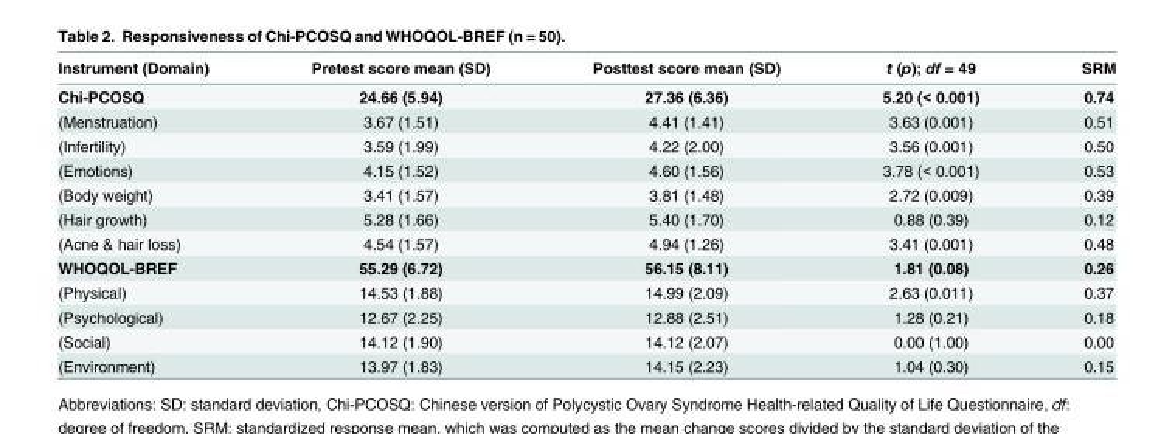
<table><thead><tr><td>Instrument (Domain)</td><td>Pretest score mean (SD)</td><td>Posttest score mean (SD)</td><td>t (p); df = 49</td><td>SRM</td></tr></thead><tbody><tr><td>Chi-PCOSQ</td><td>24.66 (5.94)</td><td>27.36 (6.36)</td><td>5.20 (&lt; 0.001)</td><td>0.74</td></tr><tr><td>(Menstruation)</td><td>3.67 (1.51)</td><td>4.41 (1.41)</td><td>3.63 (0.001)</td><td>0.51</td></tr><tr><td>(Infertility)</td><td>3.59 (1.99)</td><td>4.22 (2.00)</td><td>3.56 (0.001)</td><td>0.50</td></tr><tr><td>(Emotions)</td><td>4.15 (1.52)</td><td>4.60 (1.56)</td><td>3.78 (&lt; 0.001)</td><td>0.53</td></tr><tr><td>(Body weight)</td><td>3.41 (1.57)</td><td>3.81 (1.48)</td><td>2.72 (0.009)</td><td>0.39</td></tr><tr><td>(Hair growth)</td><td>5.28 (1.66)</td><td>5.40 (1.70)</td><td>0.88 (0.39)</td><td>0.12</td></tr><tr><td>(Acne &amp; hair loss)</td><td>4.54 (1.57)</td><td>4.94 (1.26)</td><td>3.41 (0.001)</td><td>0.48</td></tr><tr><td>WHOQOL-BREF</td><td>55.29 (6.72)</td><td>56.15 (8.11)</td><td>1.81 (0.08)</td><td>0.26</td></tr><tr><td>(Physical)</td><td>14.53 (1.88)</td><td>14.99 (2.09)</td><td>2.63 (0.011)</td><td>0.37</td></tr><tr><td>(Psychological)</td><td>12.67 (2.25)</td><td>12.88 (2.51)</td><td>1.28 (0.21)</td><td>0.18</td></tr><tr><td>(Social)</td><td>14.12 (1.90)</td><td>14.12 (2.07)</td><td>0.00 (1.00)</td><td>0.00</td></tr><tr><td>(Environment)</td><td>13.97 (1.83)</td><td>14.15 (2.23)</td><td>1.04 (0.30)</td><td>0.15</td></tr></tbody></table>